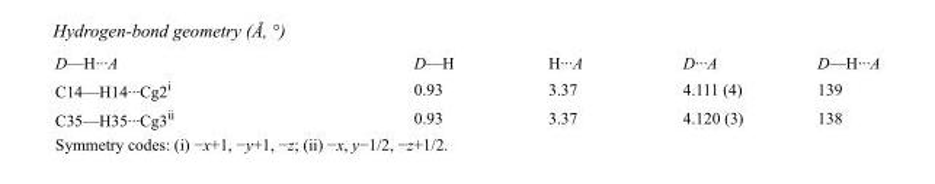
<table><tbody><tr><td>D—H···A</td><td>D—H</td><td>H···A</td><td>D···A</td><td>D—H···A</td></tr><tr><td>C14—H14···Cg2<sup>i</sup></td><td>0.93</td><td>3.37</td><td>4.111 (4)</td><td>139</td></tr><tr><td>C35—H35···Cg3<sup>ii</sup></td><td>0.93</td><td>3.37</td><td>4.120 (3)</td><td>138</td></tr></tbody></table>